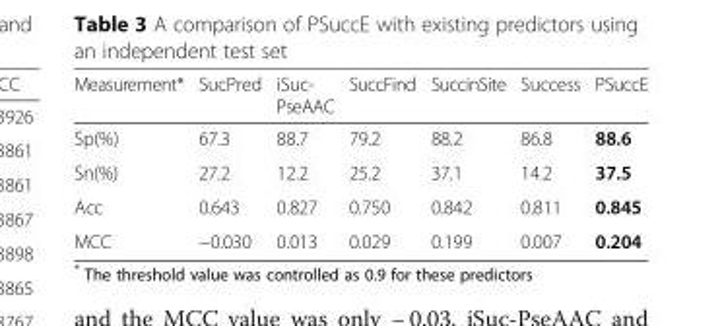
<table><thead><tr><td>Measurement*</td><td>SucPred</td><td>iSuc- PseAAC</td><td>SuccFind</td><td>SuccinSite</td><td>Success</td><td>PSuccE</td></tr></thead><tbody><tr><td>Sp(%)</td><td>67.3</td><td>88.7</td><td>79.2</td><td>88.2</td><td>86.8</td><td>88.6</td></tr><tr><td>Sn(%)</td><td>27.2</td><td>12.2</td><td>25.2</td><td>37.1</td><td>14.2</td><td>37.5</td></tr><tr><td>Acc</td><td>0.643</td><td>0.827</td><td>0.750</td><td>0.842</td><td>0.811</td><td>0.845</td></tr><tr><td>MCC</td><td>−0.030</td><td>0.013</td><td>0.029</td><td>0.199</td><td>0.007</td><td>0.204</td></tr></tbody></table>